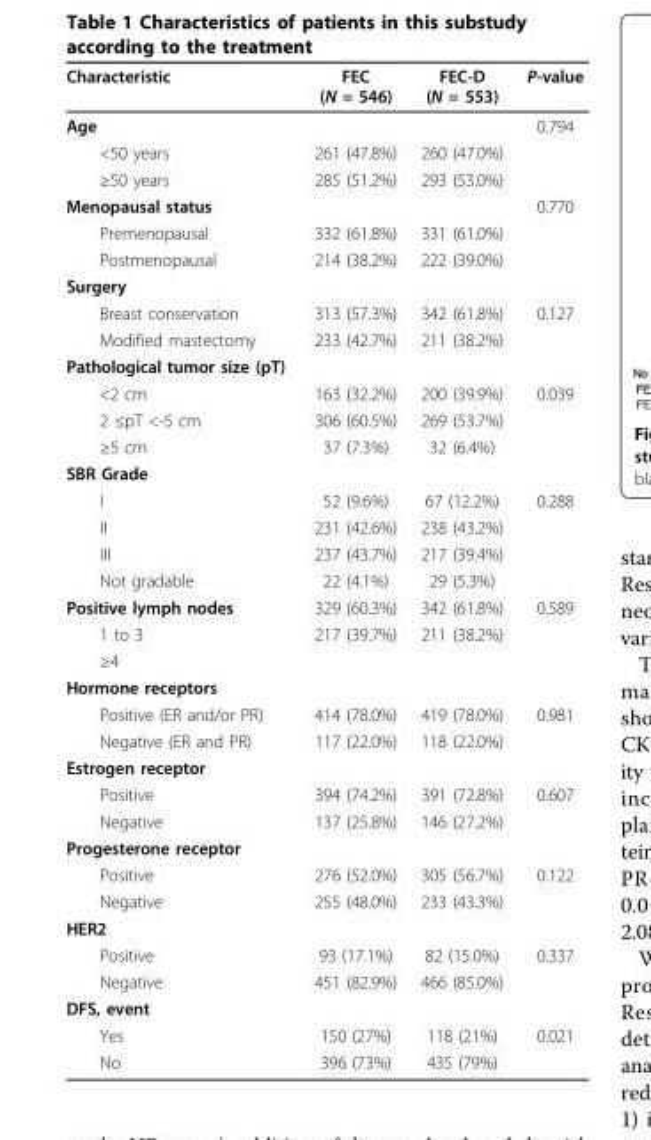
<table><thead><tr><td>Characteristic</td><td>FEC (N = 546)</td><td>FEC-D (N = 553)</td><td>P-value</td></tr></thead><tbody><tr><td>Age</td><td></td><td></td><td>0.794</td></tr><tr><td>&lt;50 years</td><td>261 (47.8%)</td><td>260 (47.0%)</td><td></td></tr><tr><td>≥50 years</td><td>285 (51.2%)</td><td>293 (53.0%)</td><td></td></tr><tr><td>Menopausal status</td><td></td><td></td><td>0.770</td></tr><tr><td>Premenopausal</td><td>332 (61.8%)</td><td>331 (61.0%)</td><td></td></tr><tr><td>Postmenopausal</td><td>214 (38.2%)</td><td>222 (39.0%)</td><td></td></tr><tr><td colspan="4">Surgery</td></tr><tr><td>Breast conservation</td><td>313 (57.3%)</td><td>342 (61.8%)</td><td>0.127</td></tr><tr><td>Modified mastectomy</td><td>233 (42.7%)</td><td>211 (38.2%)</td><td></td></tr><tr><td colspan="4">Pathological tumor size (pT)</td></tr><tr><td>&lt;2 cm</td><td>163 (32.2%)</td><td>200 (39.9%)</td><td>0.039</td></tr><tr><td>2 ≤pT &lt;-5 cm</td><td>306 (60.5%)</td><td>269 (53.7%)</td><td></td></tr><tr><td>≥5 cm</td><td>37 (7.3%)</td><td>32 (6.4%)</td><td></td></tr><tr><td colspan="4">SBR Grade</td></tr><tr><td>I</td><td>52 (9.6%)</td><td>67 (12.2%)</td><td>0.288</td></tr><tr><td>II</td><td>231 (42.6%)</td><td>238 (43.2%)</td><td></td></tr><tr><td>III</td><td>237 (43.7%)</td><td>217 (39.4%)</td><td></td></tr><tr><td>Not gradable</td><td>22 (4.1%)</td><td>29 (5.3%)</td><td></td></tr><tr><td>Positive lymph nodes</td><td>329 (60.3%)</td><td>342 (61.8%)</td><td>0.589</td></tr><tr><td>1 to 3</td><td>217 (39.7%)</td><td>211 (38.2%)</td><td></td></tr><tr><td colspan="4">≥4</td></tr><tr><td colspan="4">Hormone receptors</td></tr><tr><td>Positive (ER and/or PR)</td><td>414 (78.0%)</td><td>419 (78.0%)</td><td>0.981</td></tr><tr><td>Negative (ER and PR)</td><td>117 (22.0%)</td><td>118 (22.0%)</td><td></td></tr><tr><td colspan="4">Estrogen receptor</td></tr><tr><td>Positive</td><td>394 (74.2%)</td><td>391 (72.8%)</td><td>0.607</td></tr><tr><td>Negative</td><td>137 (25.8%)</td><td>146 (27.2%)</td><td></td></tr><tr><td colspan="4">Progesterone receptor</td></tr><tr><td>Positive</td><td>276 (52.0%)</td><td>305 (56.7%)</td><td>0.122</td></tr><tr><td>Negative</td><td>255 (48.0%)</td><td>233 (43.3%)</td><td></td></tr><tr><td colspan="4">HER2</td></tr><tr><td>Positive</td><td>93 (17.1%)</td><td>82 (15.0%)</td><td>0.337</td></tr><tr><td>Negative</td><td>451 (82.9%)</td><td>466 (85.0%)</td><td></td></tr><tr><td colspan="4">DFS, event</td></tr><tr><td>Yes</td><td>150 (27%)</td><td>118 (21%)</td><td>0.021</td></tr><tr><td>No</td><td>396 (73%)</td><td>435 (79%)</td><td></td></tr></tbody></table>